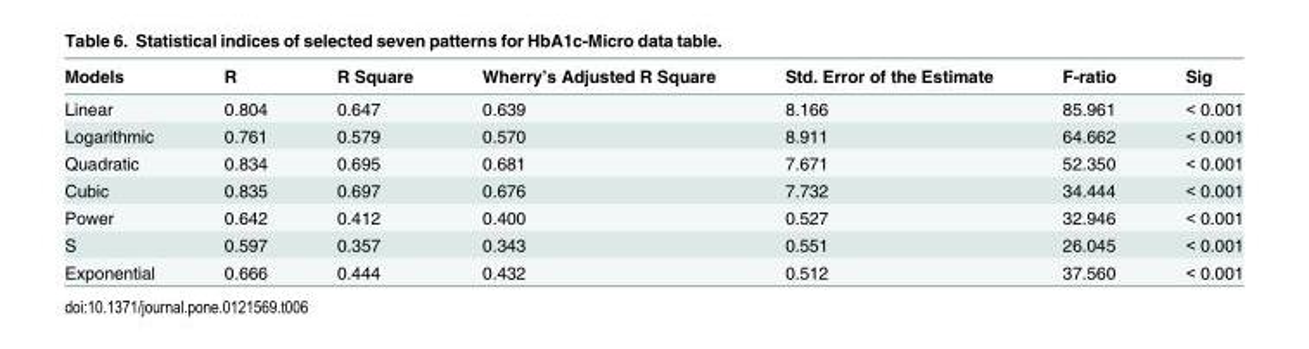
<table><thead><tr><td>Models</td><td>R</td><td>R Square</td><td>Wherry’s Adjusted R Square</td><td>Std. Error of the Estimate</td><td>F-ratio</td><td>Sig</td></tr></thead><tbody><tr><td>Linear</td><td>0.804</td><td>0.647</td><td>0.639</td><td>8.166</td><td>85.961</td><td>&lt; 0.001</td></tr><tr><td>Logarithmic</td><td>0.761</td><td>0.579</td><td>0.570</td><td>8.911</td><td>64.662</td><td>&lt; 0.001</td></tr><tr><td>Quadratic</td><td>0.834</td><td>0.695</td><td>0.681</td><td>7.671</td><td>52.350</td><td>&lt; 0.001</td></tr><tr><td>Cubic</td><td>0.835</td><td>0.697</td><td>0.676</td><td>7.732</td><td>34.444</td><td>&lt; 0.001</td></tr><tr><td>Power</td><td>0.642</td><td>0.412</td><td>0.400</td><td>0.527</td><td>32.946</td><td>&lt; 0.001</td></tr><tr><td>S</td><td>0.597</td><td>0.357</td><td>0.343</td><td>0.551</td><td>26.045</td><td>&lt; 0.001</td></tr><tr><td>Exponential</td><td>0.666</td><td>0.444</td><td>0.432</td><td>0.512</td><td>37.560</td><td>&lt; 0.001</td></tr></tbody></table>